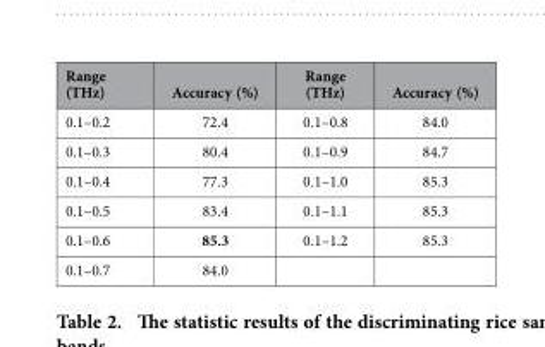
<table><thead><tr><td>Range (THz)</td><td>Accuracy (%)</td><td>Range (THz)</td><td>Accuracy (%)</td></tr></thead><tbody><tr><td>0.1–0.2</td><td>72.4</td><td>0.1–0.8</td><td>84.0</td></tr><tr><td>0.1–0.3</td><td>80.4</td><td>0.1–0.9</td><td>84.7</td></tr><tr><td>0.1–0.4</td><td>77.3</td><td>0.1–1.0</td><td>85.3</td></tr><tr><td>0.1–0.5</td><td>83.4</td><td>0.1–1.1</td><td>85.3</td></tr><tr><td>0.1–0.6</td><td>85.3</td><td>0.1–1.2</td><td>85.3</td></tr><tr><td>0.1–0.7</td><td>84.0</td><td></td><td></td></tr></tbody></table>